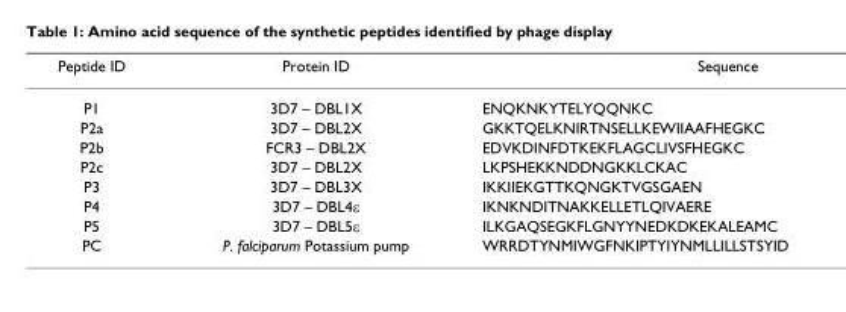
<table><thead><tr><td>Peptide ID</td><td>Protein ID</td><td>Sequence</td></tr></thead><tbody><tr><td>P1</td><td>3D7 – DBL1X</td><td>ENQKNKYTELYQQNKC</td></tr><tr><td>P2a</td><td>3D7 – DBL2X</td><td>GKKTQELKNIRTNSELLKEWIIAAFHEGKC</td></tr><tr><td>P2b</td><td>FCR3 – DBL2X</td><td>EDVKDINFDTKEKFLAGCLIVSFHEGKC</td></tr><tr><td>P2c</td><td>3D7 – DBL2X</td><td>LKPSHEKKNDDNGKKLCKAC</td></tr><tr><td>P3</td><td>3D7 – DBL3X</td><td>IKKIIEKGTTKQNGKTVGSGAEN</td></tr><tr><td>P4</td><td>3D7 – DBL4ε</td><td>IKNKNDITNAKKELLETLQIVAERE</td></tr><tr><td>P5</td><td>3D7 – DBL5ε</td><td>ILKGAQSEGKFLGNYYNEDKDKEKALEAMC</td></tr><tr><td>PC</td><td>P. falciparum Potassium pump</td><td>WRRDTYNMIWGFNKIPTYIYNMLLILLSTSYID</td></tr></tbody></table>